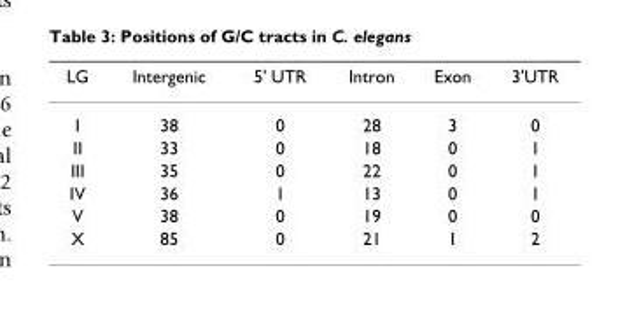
<table><thead><tr><td>LG</td><td>Intergenic</td><td>5&#x27; UTR</td><td>Intron</td><td>Exon</td><td>3&#x27;UTR</td></tr></thead><tbody><tr><td>I</td><td>38</td><td>0</td><td>28</td><td>3</td><td>0</td></tr><tr><td>II</td><td>33</td><td>0</td><td>18</td><td>0</td><td>1</td></tr><tr><td>III</td><td>35</td><td>0</td><td>22</td><td>0</td><td>1</td></tr><tr><td>IV</td><td>36</td><td>1</td><td>13</td><td>0</td><td>1</td></tr><tr><td>V</td><td>38</td><td>0</td><td>19</td><td>0</td><td>0</td></tr><tr><td>X</td><td>85</td><td>0</td><td>21</td><td>1</td><td>2</td></tr></tbody></table>